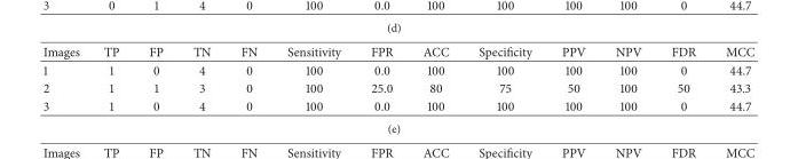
<table><thead><tr><td>Images</td><td>TP</td><td>FP</td><td>TN</td><td>FN</td><td>Sensitivity</td><td>FPR</td><td>ACC</td><td>Specificity</td><td>PPV</td><td>NPV</td><td>FDR</td><td>MCC</td></tr></thead><tbody><tr><td>1</td><td>1</td><td>0</td><td>4</td><td>0</td><td>100</td><td>0.0</td><td>100</td><td>100</td><td>100</td><td>100</td><td>0</td><td>44.7</td></tr><tr><td>2</td><td>1</td><td>1</td><td>3</td><td>0</td><td>100</td><td>25.0</td><td>80</td><td>75</td><td>50</td><td>100</td><td>50</td><td>43.3</td></tr><tr><td>3</td><td>1</td><td>0</td><td>4</td><td>0</td><td>100</td><td>0.0</td><td>100</td><td>100</td><td>100</td><td>100</td><td>0</td><td>44.7</td></tr></tbody></table>